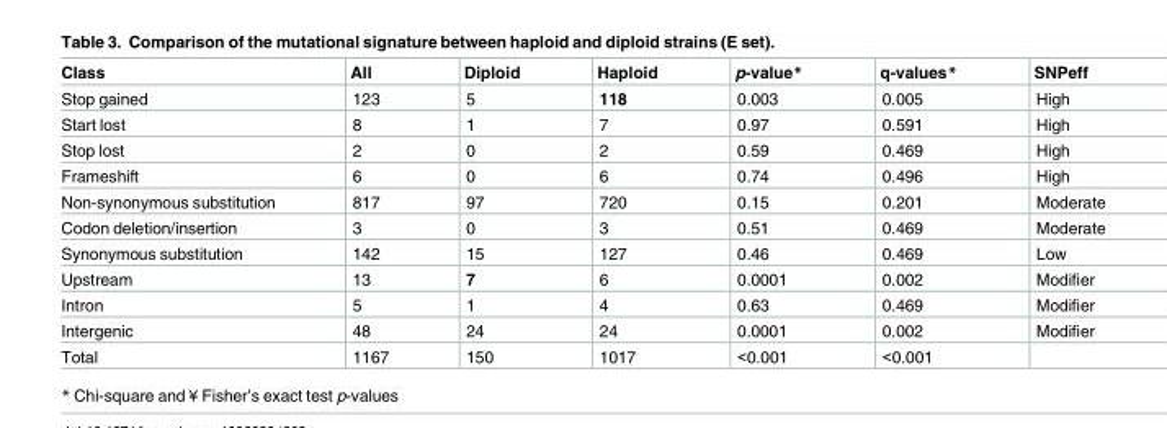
<table><thead><tr><td>Class</td><td>All</td><td>Diploid</td><td>Haploid</td><td>p-value*</td><td>q-values*</td><td>SNPeff</td></tr></thead><tbody><tr><td>Stop gained</td><td>123</td><td>5</td><td>118</td><td>0.003</td><td>0.005</td><td>High</td></tr><tr><td>Start lost</td><td>8</td><td>1</td><td>7</td><td>0.97</td><td>0.591</td><td>High</td></tr><tr><td>Stop lost</td><td>2</td><td>0</td><td>2</td><td>0.59</td><td>0.469</td><td>High</td></tr><tr><td>Frameshift</td><td>6</td><td>0</td><td>6</td><td>0.74</td><td>0.496</td><td>High</td></tr><tr><td>Non-synonymous substitution</td><td>817</td><td>97</td><td>720</td><td>0.15</td><td>0.201</td><td>Moderate</td></tr><tr><td>Codon deletion/insertion</td><td>3</td><td>0</td><td>3</td><td>0.51</td><td>0.469</td><td>Moderate</td></tr><tr><td>Synonymous substitution</td><td>142</td><td>15</td><td>127</td><td>0.46</td><td>0.469</td><td>Low</td></tr><tr><td>Upstream</td><td>13</td><td>7</td><td>6</td><td>0.0001</td><td>0.002</td><td>Modifier</td></tr><tr><td>Intron</td><td>5</td><td>1</td><td>4</td><td>0.63</td><td>0.469</td><td>Modifier</td></tr><tr><td>Intergenic</td><td>48</td><td>24</td><td>24</td><td>0.0001</td><td>0.002</td><td>Modifier</td></tr><tr><td>Total</td><td>1167</td><td>150</td><td>1017</td><td>&lt;0.001</td><td>&lt;0.001</td><td></td></tr></tbody></table>